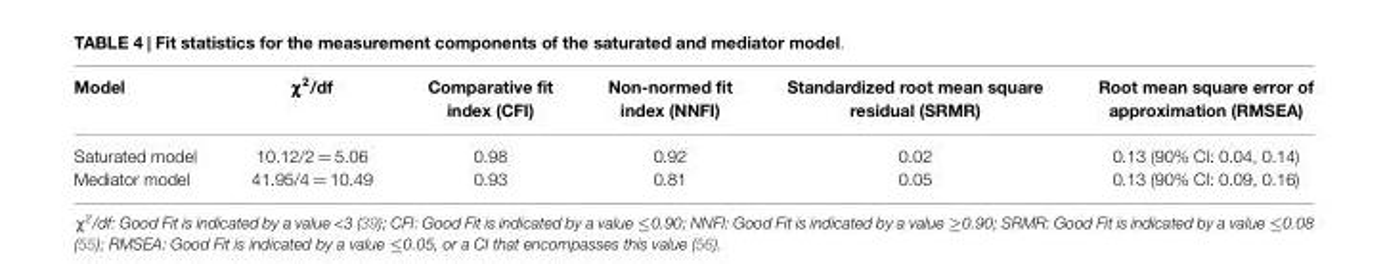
<table><thead><tr><td>Model</td><td>χχχ2/df</td><td>Comparative fit index (CFI)</td><td>Non-normed fit index (NNFI)</td><td>Standardized root mean square residual (SRMR)</td><td>Root mean square error of approximation (RMSEA)</td></tr></thead><tbody><tr><td>Saturated model</td><td>10.12/2 = 5.06</td><td>0.98</td><td>0.92</td><td>0.02</td><td>0.13 (90% CI: 0.04, 0.14)</td></tr><tr><td>Mediator model</td><td>41.95/4 = 10.49</td><td>0.93</td><td>0.81</td><td>0.05</td><td>0.13 (90% CI: 0.09, 0.16)</td></tr></tbody></table>